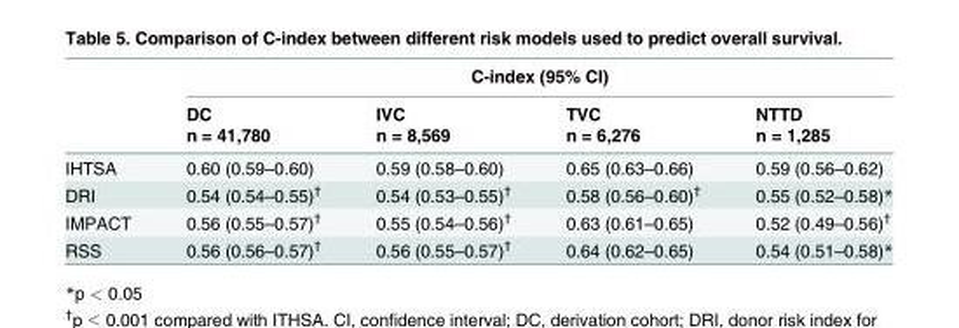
<table><thead><tr><td rowspan="3"></td><td colspan="4">C-index (95% CI)</td></tr><tr><td rowspan="2">DC n = 41,780</td><td rowspan="2">IVC n = 8,569</td><td rowspan="2">TVC n = 6,276</td><td rowspan="2">NTTD n = 1,285</td></tr><tr></tr></thead><tbody><tr><td>IHTSA</td><td>0.60 (0.59–0.60)</td><td>0.59 (0.58–0.60)</td><td>0.65 (0.63–0.66)</td><td>0.59 (0.56–0.62)</td></tr><tr><td>DRI</td><td>0.54 (0.54–0.55)<sup>†</sup></td><td>0.54 (0.53–0.55)<sup>†</sup></td><td>0.58 (0.56–0.60)<sup>†</sup></td><td>0.55 (0.52–0.58)*</td></tr><tr><td>IMPACT</td><td>0.56 (0.55–0.57)<sup>†</sup></td><td>0.55 (0.54–0.56)<sup>†</sup></td><td>0.63 (0.61–0.65)</td><td>0.52 (0.49–0.56)<sup>†</sup></td></tr><tr><td>RSS</td><td>0.56 (0.56–0.57)<sup>†</sup></td><td>0.56 (0.55–0.57)<sup>†</sup></td><td>0.64 (0.62–0.65)</td><td>0.54 (0.51–0.58)*</td></tr></tbody></table>